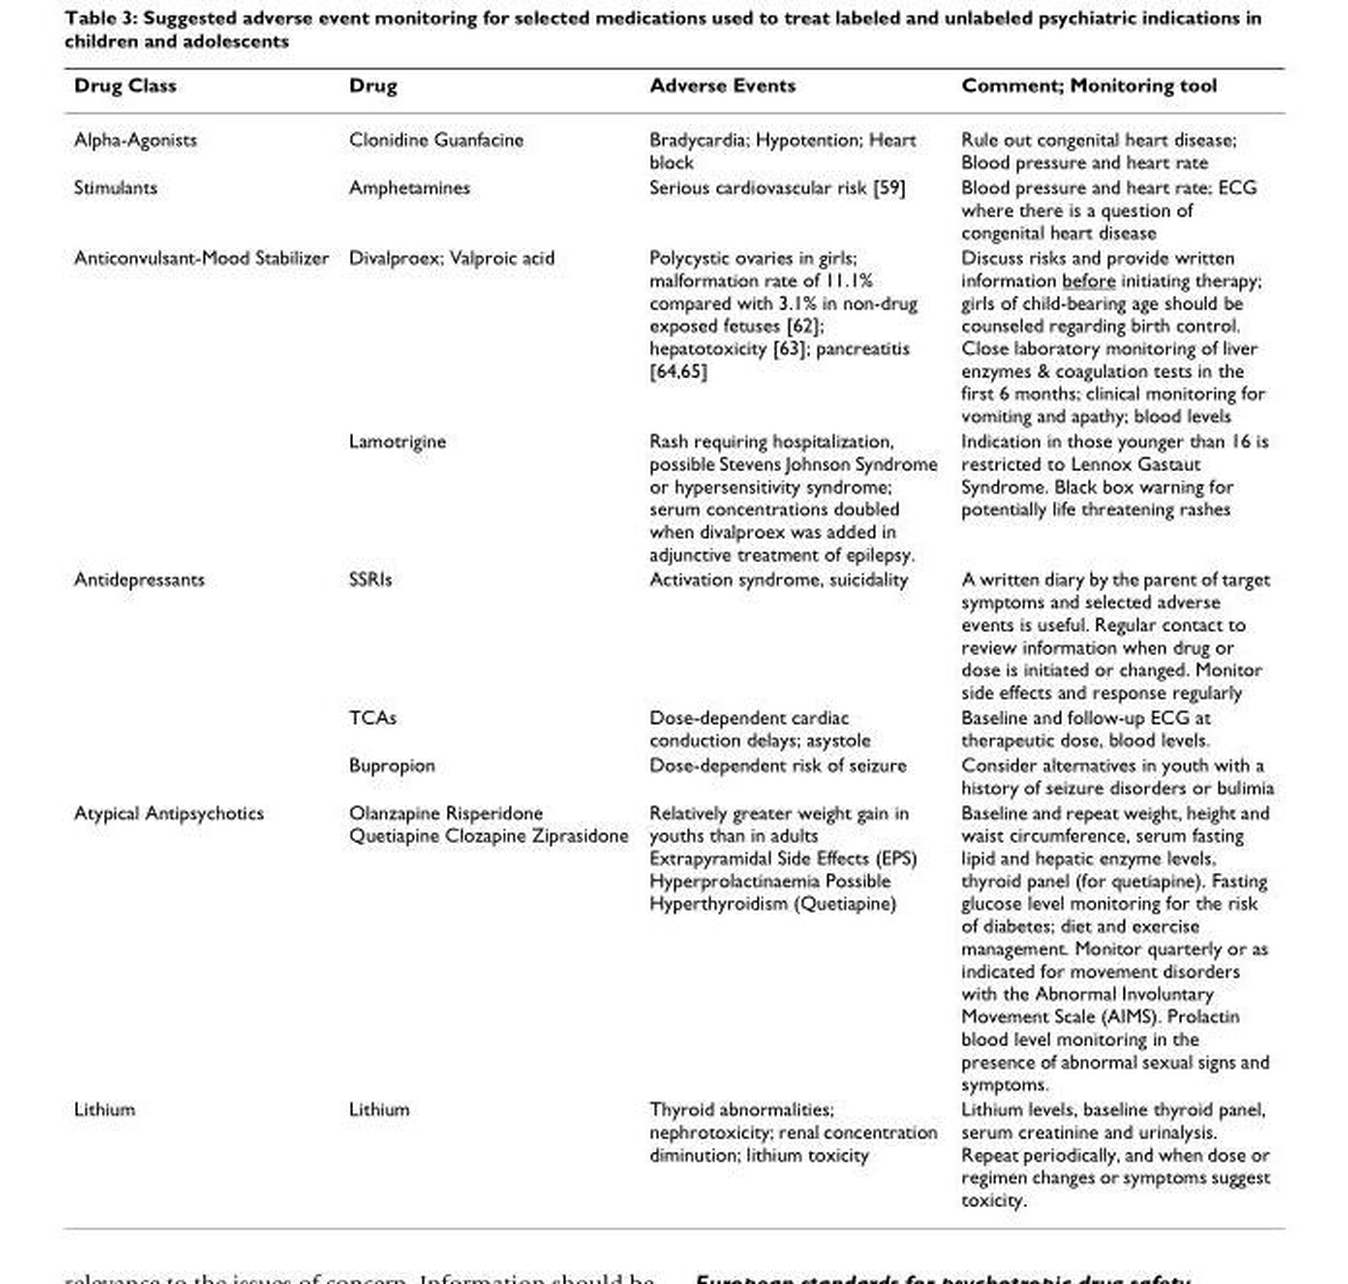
<table><thead><tr><td>Drug Class</td><td>Drug</td><td>Adverse Events</td><td>Comment; Monitoring tool</td></tr></thead><tbody><tr><td>Alpha-Agonists</td><td>Clonidine Guanfacine</td><td>Bradycardia; Hypotention; Heart block</td><td>Rule out congenital heart disease; Blood pressure and heart rate</td></tr><tr><td>Stimulants</td><td>Amphetamines</td><td>Serious cardiovascular risk [59]</td><td>Blood pressure and heart rate; ECG where there is a question of congenital heart disease</td></tr><tr><td rowspan="2">Anticonvulsant-Mood Stabilizer</td><td>Divalproex; Valproic acid</td><td>Polycystic ovaries in girls; malformation rate of 11.1% compared with 3.1% in non-drug exposed fetuses [62]; hepatotoxicity [63]; pancreatitis [64,65]</td><td>Discuss risks and provide written information before initiating therapy; girls of child-bearing age should be counseled regarding birth control. Close laboratory monitoring of liver enzymes &amp; coagulation tests in the first 6 months; clinical monitoring for vomiting and apathy; blood levels</td></tr><tr><td>Lamotrigine</td><td>Rash requiring hospitalization, possible Stevens Johnson Syndrome or hypersensitivity syndrome; serum concentrations doubled when divalproex was added in adjunctive treatment of epilepsy.</td><td>Indication in those younger than 16 is restricted to Lennox Gastaut Syndrome. Black box warning for potentially life threatening rashes</td></tr><tr><td rowspan="3">Antidepressants</td><td>SSRIs</td><td>Activation syndrome, suicidality</td><td>A written diary by the parent of target symptoms and selected adverse events is useful. Regular contact to review information when drug or dose is initiated or changed. Monitor side effects and response regularly</td></tr><tr><td>TCAs</td><td>Dose-dependent cardiac conduction delays; asystole</td><td>Baseline and follow-up ECG at therapeutic dose, blood levels.</td></tr><tr><td>Bupropion</td><td>Dose-dependent risk of seizure</td><td>Consider alternatives in youth with a history of seizure disorders or bulimia</td></tr><tr><td>Atypical Antipsychotics</td><td>Olanzapine Risperidone Quetiapine Clozapine Ziprasidone</td><td>Relatively greater weight gain in youths than in adults Extrapyramidal Side Effects (EPS) Hyperprolactinaemia Possible Hyperthyroidism (Quetiapine)</td><td>Baseline and repeat weight, height and waist circumference, serum fasting lipid and hepatic enzyme levels, thyroid panel (for quetiapine). Fasting glucose level monitoring for the risk of diabetes; diet and exercise management. Monitor quarterly or as indicated for movement disorders with the Abnormal Involuntary Movement Scale (AIMS). Prolactin blood level monitoring in the presence of abnormal sexual signs and symptoms.</td></tr><tr><td>Lithium</td><td>Lithium</td><td>Thyroid abnormalities; nephrotoxicity; renal concentration diminution; lithium toxicity</td><td>Lithium levels, baseline thyroid panel, serum creatinine and urinalysis. Repeat periodically, and when dose or regimen changes or symptoms suggest toxicity.</td></tr></tbody></table>